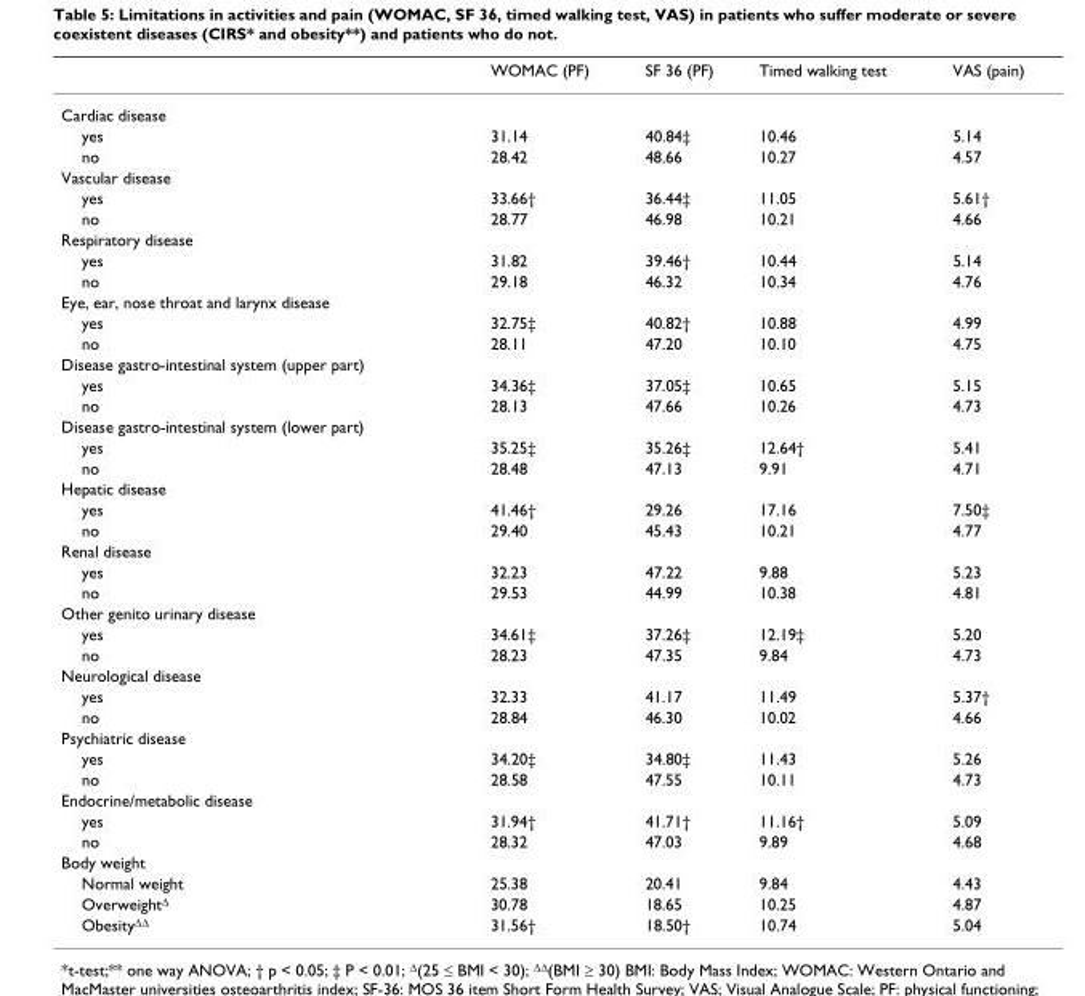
<table><thead><tr><td></td><td>WOMAC (PF)</td><td>SF 36 (PF)</td><td>Timed walking test</td><td>VAS (pain)</td></tr></thead><tbody><tr><td colspan="5">Cardiac disease</td></tr><tr><td>yes</td><td>31.14</td><td>40.84‡</td><td>10.46</td><td>5.14</td></tr><tr><td>no</td><td>28.42</td><td>48.66</td><td>10.27</td><td>4.57</td></tr><tr><td colspan="5">Vascular disease</td></tr><tr><td>yes</td><td>33.66†</td><td>36.44‡</td><td>11.05</td><td>5.61†</td></tr><tr><td>no</td><td>28.77</td><td>46.98</td><td>10.21</td><td>4.66</td></tr><tr><td colspan="5">Respiratory disease</td></tr><tr><td>yes</td><td>31.82</td><td>39.46†</td><td>10.44</td><td>5.14</td></tr><tr><td>no</td><td>29.18</td><td>46.32</td><td>10.34</td><td>4.76</td></tr><tr><td colspan="5">Eye, ear, nose throat and larynx disease</td></tr><tr><td>yes</td><td>32.75‡</td><td>40.82†</td><td>10.88</td><td>4.99</td></tr><tr><td>no</td><td>28.11</td><td>47.20</td><td>10.10</td><td>4.75</td></tr><tr><td colspan="5">Disease gastro-intestinal system (upper part)</td></tr><tr><td>yes</td><td>34.36‡</td><td>37.05‡</td><td>10.65</td><td>5.15</td></tr><tr><td>no</td><td>28.13</td><td>47.66</td><td>10.26</td><td>4.73</td></tr><tr><td colspan="5">Disease gastro-intestinal system (lower part)</td></tr><tr><td>yes</td><td>35.25‡</td><td>35.26‡</td><td>12.64†</td><td>5.41</td></tr><tr><td>no</td><td>28.48</td><td>47.13</td><td>9.91</td><td>4.71</td></tr><tr><td colspan="5">Hepatic disease</td></tr><tr><td>yes</td><td>41.46†</td><td>29.26</td><td>17.16</td><td>7.50‡</td></tr><tr><td>no</td><td>29.40</td><td>45.43</td><td>10.21</td><td>4.77</td></tr><tr><td colspan="5">Renal disease</td></tr><tr><td>yes</td><td>32.23</td><td>47.22</td><td>9.88</td><td>5.23</td></tr><tr><td>no</td><td>29.53</td><td>44.99</td><td>10.38</td><td>4.81</td></tr><tr><td colspan="5">Other genito urinary disease</td></tr><tr><td>yes</td><td>34.61‡</td><td>37.26‡</td><td>12.19‡</td><td>5.20</td></tr><tr><td>no</td><td>28.23</td><td>47.35</td><td>9.84</td><td>4.73</td></tr><tr><td colspan="5">Neurological disease</td></tr><tr><td>yes</td><td>32.33</td><td>41.17</td><td>11.49</td><td>5.37†</td></tr><tr><td>no</td><td>28.84</td><td>46.30</td><td>10.02</td><td>4.66</td></tr><tr><td colspan="5">Psychiatric disease</td></tr><tr><td>yes</td><td>34.20‡</td><td>34.80‡</td><td>11.43</td><td>5.26</td></tr><tr><td>no</td><td>28.58</td><td>47.55</td><td>10.11</td><td>4.73</td></tr><tr><td colspan="5">Endocrine/metabolic disease</td></tr><tr><td>yes</td><td>31.94†</td><td>41.71†</td><td>11.16†</td><td>5.09</td></tr><tr><td>no</td><td>28.32</td><td>47.03</td><td>9.89</td><td>4.68</td></tr><tr><td colspan="5">Body weight</td></tr><tr><td>Normal weight</td><td>25.38</td><td>20.41</td><td>9.84</td><td>4.43</td></tr><tr><td>Overweight<sup>Δ</sup></td><td>30.78</td><td>18.65</td><td>10.25</td><td>4.87</td></tr><tr><td>Obesity<sup>ΔΔ</sup></td><td>31.56†</td><td>18.50†</td><td>10.74</td><td>5.04</td></tr></tbody></table>